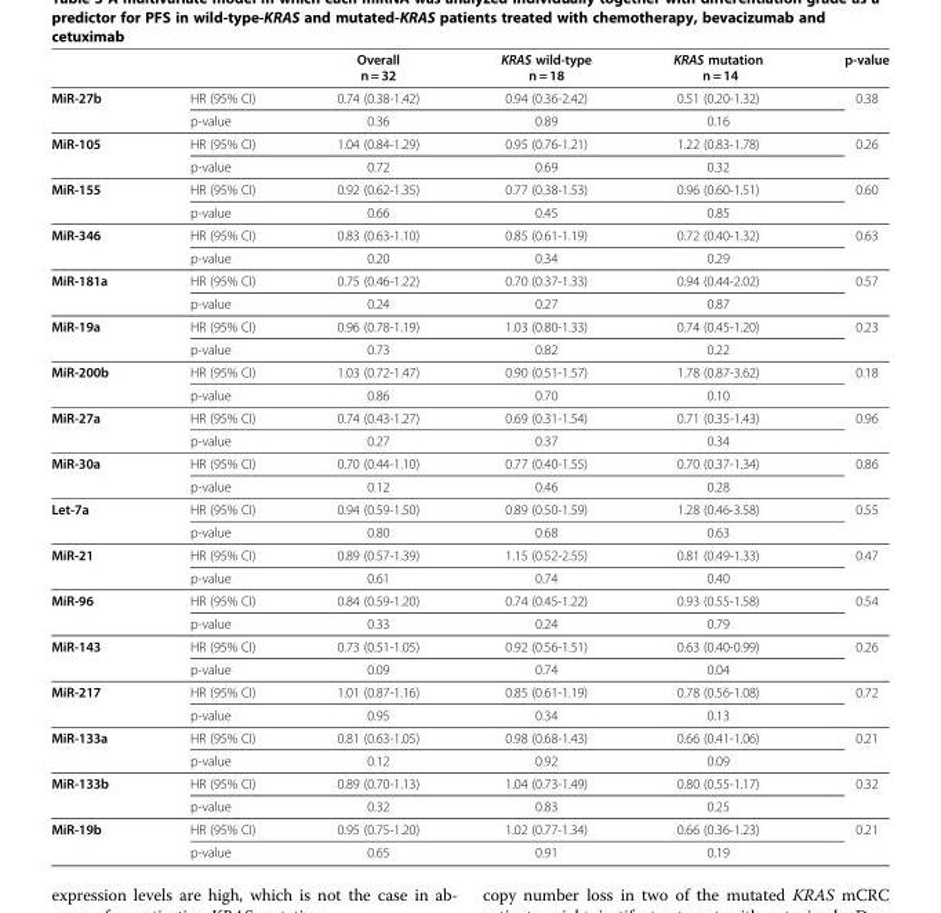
<table><thead><tr><td></td><td></td><td>Overall n = 32</td><td>KRAS wild-type n = 18</td><td>KRAS mutation n = 14</td><td>p-value</td></tr></thead><tbody><tr><td rowspan="2">MiR-27b</td><td>HR (95% CI)</td><td>0.74 (0.38-1.42)</td><td>0.94 (0.36-2.42)</td><td>0.51 (0.20-1.32)</td><td rowspan="2">0.38</td></tr><tr><td>p-value</td><td>0.36</td><td>0.89</td><td>0.16</td></tr><tr><td rowspan="2">MiR-105</td><td>HR (95% CI)</td><td>1.04 (0.84-1.29)</td><td>0.95 (0.76-1.21)</td><td>1.22 (0.83-1.78)</td><td rowspan="2">0.26</td></tr><tr><td>p-value</td><td>0.72</td><td>0.69</td><td>0.32</td></tr><tr><td rowspan="2">MiR-155</td><td>HR (95% CI)</td><td>0.92 (0.62-1.35)</td><td>0.77 (0.38-1.53)</td><td>0.96 (0.60-1.51)</td><td rowspan="2">0.60</td></tr><tr><td>p-value</td><td>0.66</td><td>0.45</td><td>0.85</td></tr><tr><td rowspan="2">MiR-346</td><td>HR (95% CI)</td><td>0.83 (0.63-1.10)</td><td>0.85 (0.61-1.19)</td><td>0.72 (0.40-1.32)</td><td rowspan="2">0.63</td></tr><tr><td>p-value</td><td>0.20</td><td>0.34</td><td>0.29</td></tr><tr><td rowspan="2">MiR-181a</td><td>HR (95% CI)</td><td>0.75 (0.46-1.22)</td><td>0.70 (0.37-1.33)</td><td>0.94 (0.44-2.02)</td><td rowspan="2">0.57</td></tr><tr><td>p-value</td><td>0.24</td><td>0.27</td><td>0.87</td></tr><tr><td rowspan="2">MiR-19a</td><td>HR (95% CI)</td><td>0.96 (0.78-1.19)</td><td>1.03 (0.80-1.33)</td><td>0.74 (0.45-1.20)</td><td rowspan="2">0.23</td></tr><tr><td>p-value</td><td>0.73</td><td>0.82</td><td>0.22</td></tr><tr><td rowspan="2">MiR-200b</td><td>HR (95% CI)</td><td>1.03 (0.72-1.47)</td><td>0.90 (0.51-1.57)</td><td>1.78 (0.87-3.62)</td><td rowspan="2">0.18</td></tr><tr><td>p-value</td><td>0.86</td><td>0.70</td><td>0.10</td></tr><tr><td rowspan="2">MiR-27a</td><td>HR (95% CI)</td><td>0.74 (0.43-1.27)</td><td>0.69 (0.31-1.54)</td><td>0.71 (0.35-1.43)</td><td rowspan="2">0.96</td></tr><tr><td>p-value</td><td>0.27</td><td>0.37</td><td>0.34</td></tr><tr><td rowspan="2">MiR-30a</td><td>HR (95% CI)</td><td>0.70 (0.44-1.10)</td><td>0.77 (0.40-1.55)</td><td>0.70 (0.37-1.34)</td><td rowspan="2">0.86</td></tr><tr><td>p-value</td><td>0.12</td><td>0.46</td><td>0.28</td></tr><tr><td rowspan="2">Let-7a</td><td>HR (95% CI)</td><td>0.94 (0.59-1.50)</td><td>0.89 (0.50-1.59)</td><td>1.28 (0.46-3.58)</td><td rowspan="2">0.55</td></tr><tr><td>p-value</td><td>0.80</td><td>0.68</td><td>0.63</td></tr><tr><td rowspan="2">MiR-21</td><td>HR (95% CI)</td><td>0.89 (0.57-1.39)</td><td>1.15 (0.52-2.55)</td><td>0.81 (0.49-1.33)</td><td rowspan="2">0.47</td></tr><tr><td>p-value</td><td>0.61</td><td>0.74</td><td>0.40</td></tr><tr><td rowspan="2">MiR-96</td><td>HR (95% CI)</td><td>0.84 (0.59-1.20)</td><td>0.74 (0.45-1.22)</td><td>0.93 (0.55-1.58)</td><td rowspan="2">0.54</td></tr><tr><td>p-value</td><td>0.33</td><td>0.24</td><td>0.79</td></tr><tr><td rowspan="2">MiR-143</td><td>HR (95% CI)</td><td>0.73 (0.51-1.05)</td><td>0.92 (0.56-1.51)</td><td>0.63 (0.40-0.99)</td><td rowspan="2">0.26</td></tr><tr><td>p-value</td><td>0.09</td><td>0.74</td><td>0.04</td></tr><tr><td rowspan="2">MiR-217</td><td>HR (95% CI)</td><td>1.01 (0.87-1.16)</td><td>0.85 (0.61-1.19)</td><td>0.78 (0.56-1.08)</td><td rowspan="2">0.72</td></tr><tr><td>p-value</td><td>0.95</td><td>0.34</td><td>0.13</td></tr><tr><td rowspan="2">MiR-133a</td><td>HR (95% CI)</td><td>0.81 (0.63-1.05)</td><td>0.98 (0.68-1.43)</td><td>0.66 (0.41-1.06)</td><td rowspan="2">0.21</td></tr><tr><td>p-value</td><td>0.12</td><td>0.92</td><td>0.09</td></tr><tr><td rowspan="2">MiR-133b</td><td>HR (95% CI)</td><td>0.89 (0.70-1.13)</td><td>1.04 (0.73-1.49)</td><td>0.80 (0.55-1.17)</td><td rowspan="2">0.32</td></tr><tr><td>p-value</td><td>0.32</td><td>0.83</td><td>0.25</td></tr><tr><td rowspan="2">MiR-19b</td><td>HR (95% CI)</td><td>0.95 (0.75-1.20)</td><td>1.02 (0.77-1.34)</td><td>0.66 (0.36-1.23)</td><td rowspan="2">0.21</td></tr><tr><td>p-value</td><td>0.65</td><td>0.91</td><td>0.19</td></tr></tbody></table>